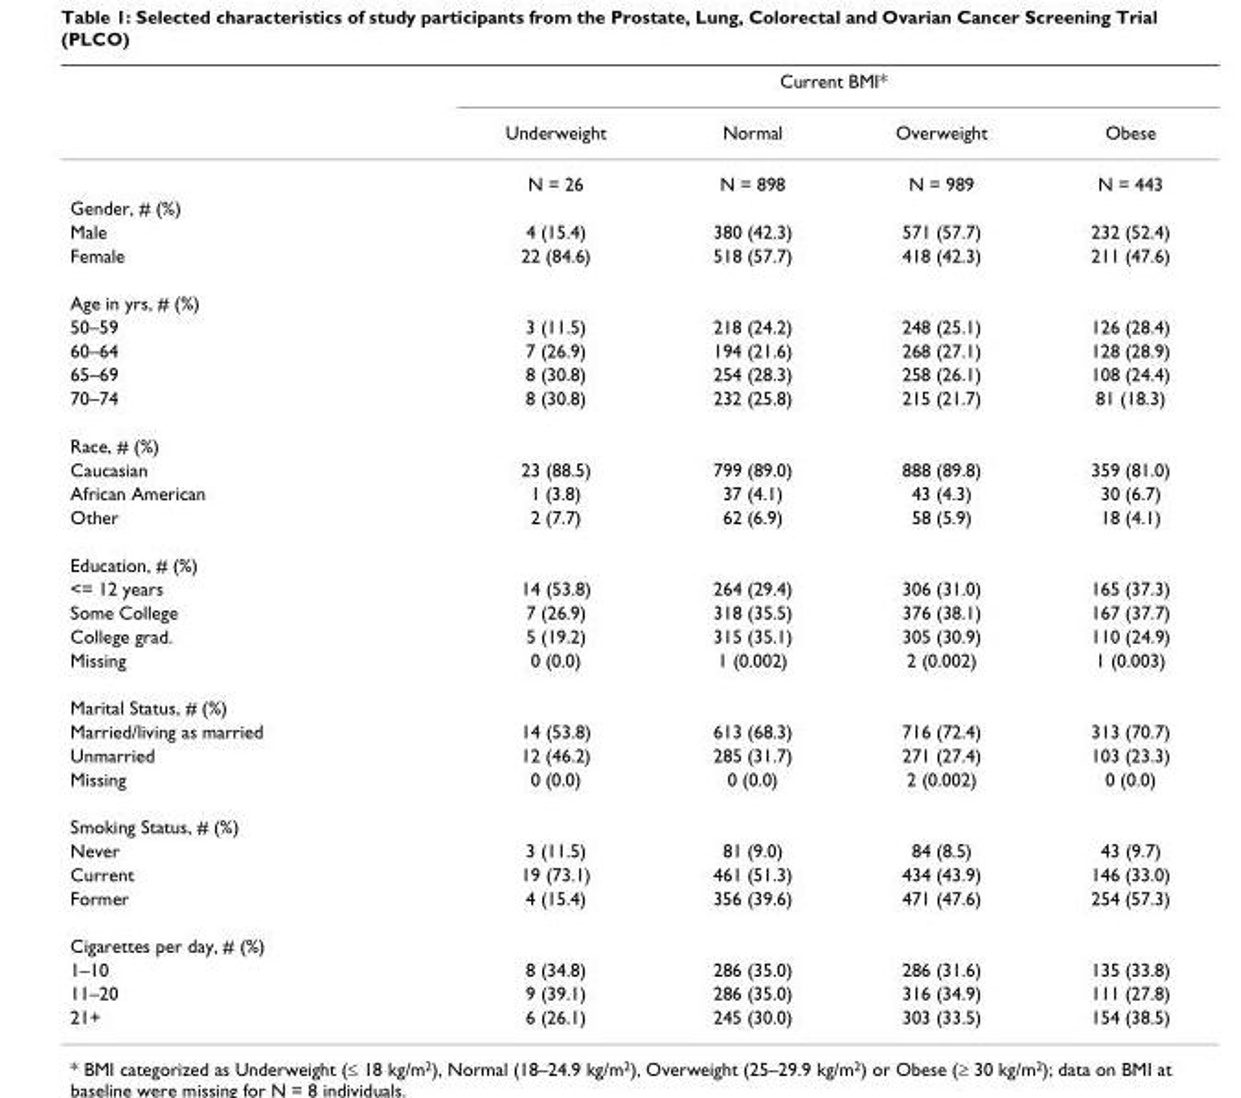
<table><thead><tr><td rowspan="2"></td><td colspan="4">Current BMI*</td></tr><tr><td>Underweight</td><td>Normal</td><td>Overweight</td><td>Obese</td></tr></thead><tbody><tr><td></td><td>N = 26</td><td>N = 898</td><td>N = 989</td><td>N = 443</td></tr><tr><td colspan="5">Gender, # (%)</td></tr><tr><td>Male</td><td>4 (15.4)</td><td>380 (42.3)</td><td>571 (57.7)</td><td>232 (52.4)</td></tr><tr><td>Female</td><td>22 (84.6)</td><td>518 (57.7)</td><td>418 (42.3)</td><td>211 (47.6)</td></tr><tr><td colspan="5">Age in yrs, # (%)</td></tr><tr><td>50–59</td><td>3 (11.5)</td><td>218 (24.2)</td><td>248 (25.1)</td><td>126 (28.4)</td></tr><tr><td>60–64</td><td>7 (26.9)</td><td>194 (21.6)</td><td>268 (27.1)</td><td>128 (28.9)</td></tr><tr><td>65–69</td><td>8 (30.8)</td><td>254 (28.3)</td><td>258 (26.1)</td><td>108 (24.4)</td></tr><tr><td>70–74</td><td>8 (30.8)</td><td>232 (25.8)</td><td>215 (21.7)</td><td>81 (18.3)</td></tr><tr><td colspan="5">Race, # (%)</td></tr><tr><td>Caucasian</td><td>23 (88.5)</td><td>799 (89.0)</td><td>888 (89.8)</td><td>359 (81.0)</td></tr><tr><td>African American</td><td>1 (3.8)</td><td>37 (4.1)</td><td>43 (4.3)</td><td>30 (6.7)</td></tr><tr><td>Other</td><td>2 (7.7)</td><td>62 (6.9)</td><td>58 (5.9)</td><td>18 (4.1)</td></tr><tr><td colspan="5">Education, # (%)</td></tr><tr><td>&lt;= 12 years</td><td>14 (53.8)</td><td>264 (29.4)</td><td>306 (31.0)</td><td>165 (37.3)</td></tr><tr><td>Some College</td><td>7 (26.9)</td><td>318 (35.5)</td><td>376 (38.1)</td><td>167 (37.7)</td></tr><tr><td>College grad.</td><td>5 (19.2)</td><td>315 (35.1)</td><td>305 (30.9)</td><td>110 (24.9)</td></tr><tr><td>Missing</td><td>0 (0.0)</td><td>1 (0.002)</td><td>2 (0.002)</td><td>1 (0.003)</td></tr><tr><td colspan="5">Marital Status, # (%)</td></tr><tr><td>Married/living as married</td><td>14 (53.8)</td><td>613 (68.3)</td><td>716 (72.4)</td><td>313 (70.7)</td></tr><tr><td>Unmarried</td><td>12 (46.2)</td><td>285 (31.7)</td><td>271 (27.4)</td><td>103 (23.3)</td></tr><tr><td>Missing</td><td>0 (0.0)</td><td>0 (0.0)</td><td>2 (0.002)</td><td>0 (0.0)</td></tr><tr><td colspan="5">Smoking Status, # (%)</td></tr><tr><td>Never</td><td>3 (11.5)</td><td>81 (9.0)</td><td>84 (8.5)</td><td>43 (9.7)</td></tr><tr><td>Current</td><td>19 (73.1)</td><td>461 (51.3)</td><td>434 (43.9)</td><td>146 (33.0)</td></tr><tr><td>Former</td><td>4 (15.4)</td><td>356 (39.6)</td><td>471 (47.6)</td><td>254 (57.3)</td></tr><tr><td colspan="5">Cigarettes per day, # (%)</td></tr><tr><td>1–10</td><td>8 (34.8)</td><td>286 (35.0)</td><td>286 (31.6)</td><td>135 (33.8)</td></tr><tr><td>11–20</td><td>9 (39.1)</td><td>286 (35.0)</td><td>316 (34.9)</td><td>111 (27.8)</td></tr><tr><td>21+</td><td>6 (26.1)</td><td>245 (30.0)</td><td>303 (33.5)</td><td>154 (38.5)</td></tr></tbody></table>